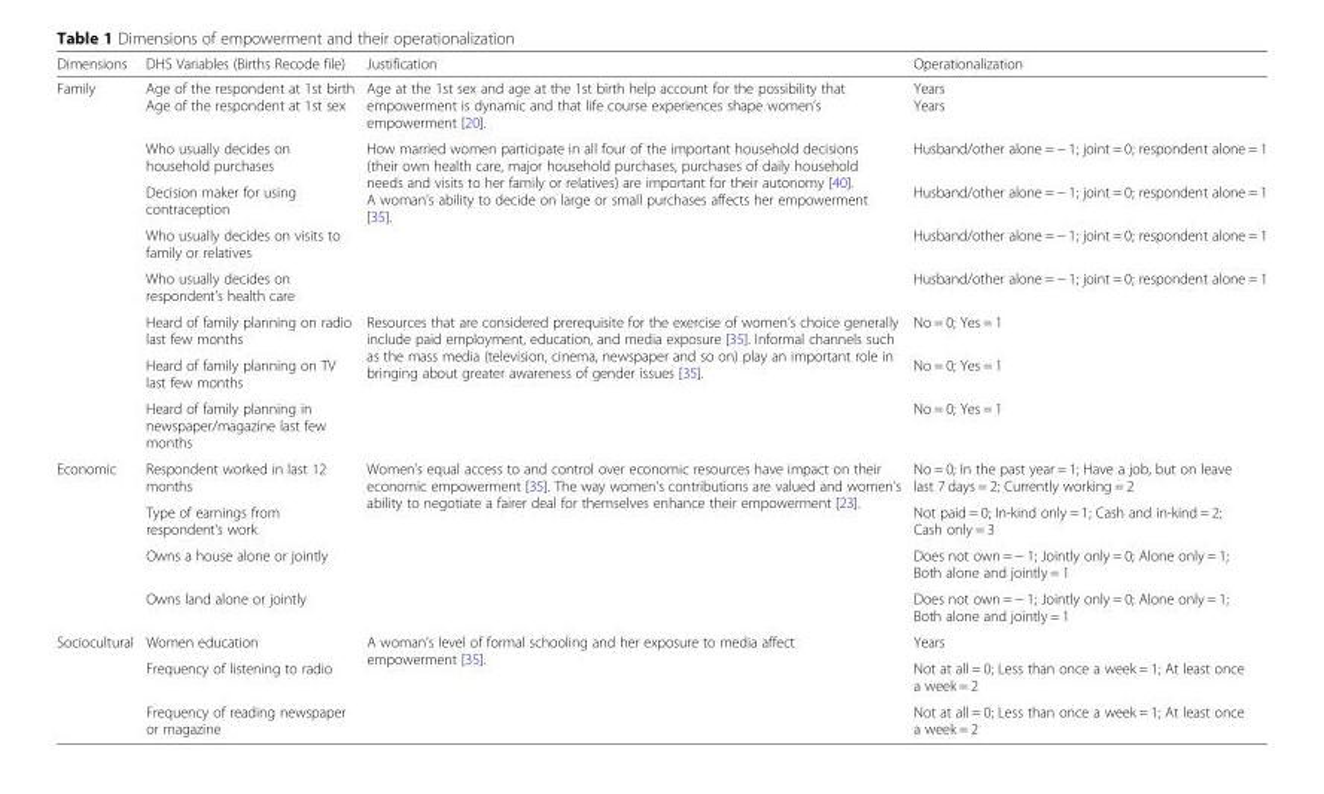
<table><thead><tr><td>Dimensions</td><td>DHS Variables (Births Recode file)</td><td>Justification</td><td>Operationalization</td></tr></thead><tbody><tr><td rowspan="8">Family</td><td>Age of the respondent at 1st birth Age of the respondent at 1st sex</td><td>Age at the 1st sex and age at the 1st birth help account for the possibility that empowerment is dynamic and that life course experiences shape women’s empowerment [20].</td><td>Years Years</td></tr><tr><td>Who usually decides on household purchases</td><td rowspan="4">How married women participate in all four of the important household decisions (their own health care, major household purchases, purchases of daily household needs and visits to her family or relatives) are important for their autonomy [40]. A woman’s ability to decide on large or small purchases affects her empowerment [35].</td><td>Husband/other alone = − 1; joint = 0; respondent alone = 1</td></tr><tr><td>Decision maker for using contraception</td><td>Husband/other alone = − 1; joint = 0; respondent alone = 1</td></tr><tr><td>Who usually decides on visits to family or relatives</td><td>Husband/other alone = − 1; joint = 0; respondent alone = 1</td></tr><tr><td>Who usually decides on respondent’s health care</td><td>Husband/other alone = − 1; joint = 0; respondent alone = 1</td></tr><tr><td>Heard of family planning on radio last few months</td><td rowspan="3">Resources that are considered prerequisite for the exercise of women’s choice generally include paid employment, education, and media exposure [35]. Informal channels such as the mass media (television, cinema, newspaper and so on) play an important role in bringing about greater awareness of gender issues [35].</td><td>No = 0; Yes = 1</td></tr><tr><td>Heard of family planning on TV last few months</td><td>No = 0; Yes = 1</td></tr><tr><td>Heard of family planning in newspaper/magazine last few months</td><td>No = 0; Yes = 1</td></tr><tr><td rowspan="4">Economic</td><td>Respondent worked in last 12 months</td><td rowspan="4">Women’s equal access to and control over economic resources have impact on their economic empowerment [35]. The way women’s contributions are valued and women’s ability to negotiate a fairer deal for themselves enhance their empowerment [23].</td><td>No = 0; In the past year = 1; Have a job, but on leave last 7 days = 2; Currently working = 2</td></tr><tr><td>Type of earnings from respondent’s work</td><td>Not paid = 0; In-kind only = 1; Cash and in-kind = 2; Cash only = 3</td></tr><tr><td>Owns a house alone or jointly</td><td>Does not own = − 1; Jointly only = 0; Alone only = 1; Both alone and jointly = 1</td></tr><tr><td>Owns land alone or jointly</td><td>Does not own = − 1; Jointly only = 0; Alone only = 1; Both alone and jointly = 1</td></tr><tr><td rowspan="3">Sociocultural</td><td>Women education</td><td rowspan="3">A woman’s level of formal schooling and her exposure to media affect empowerment [35].</td><td>Years</td></tr><tr><td>Frequency of listening to radio</td><td>Not at all = 0; Less than once a week = 1; At least once a week = 2</td></tr><tr><td>Frequency of reading newspaper or magazine</td><td>Not at all = 0; Less than once a week = 1; At least once a week = 2</td></tr></tbody></table>